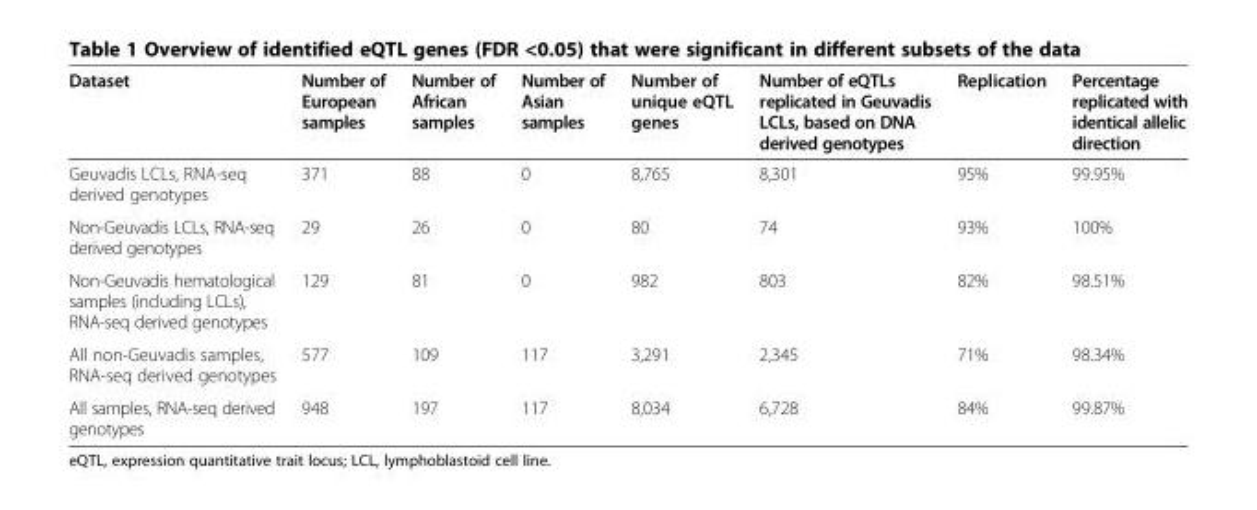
<table><thead><tr><td>Dataset</td><td>Number of European samples</td><td>Number of African samples</td><td>Number of Asian samples</td><td>Number of unique eQTL genes</td><td>Number of eQTLs replicated in Geuvadis LCLs, based on DNA derived genotypes</td><td>Replication</td><td>Percentage replicated with identical allelic direction</td></tr></thead><tbody><tr><td>Geuvadis LCLs, RNA-seq derived genotypes</td><td>371</td><td>88</td><td>0</td><td>8,765</td><td>8,301</td><td>95%</td><td>99.95%</td></tr><tr><td>Non-Geuvadis LCLs, RNA-seq derived genotypes</td><td>29</td><td>26</td><td>0</td><td>80</td><td>74</td><td>93%</td><td>100%</td></tr><tr><td>Non-Geuvadis hematological samples (including LCLs), RNA-seq derived genotypes</td><td>129</td><td>81</td><td>0</td><td>982</td><td>803</td><td>82%</td><td>98.51%</td></tr><tr><td>All non-Geuvadis samples, RNA-seq derived genotypes</td><td>577</td><td>109</td><td>117</td><td>3,291</td><td>2,345</td><td>71%</td><td>98.34%</td></tr><tr><td>All samples, RNA-seq derived genotypes</td><td>948</td><td>197</td><td>117</td><td>8,034</td><td>6,728</td><td>84%</td><td>99.87%</td></tr></tbody></table>